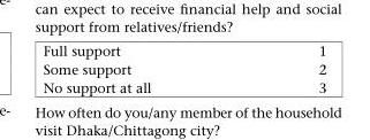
<table><tbody><tr><td>Full support</td><td>1</td></tr><tr><td>Some support</td><td>2</td></tr><tr><td>No support at all</td><td>3</td></tr></tbody></table>